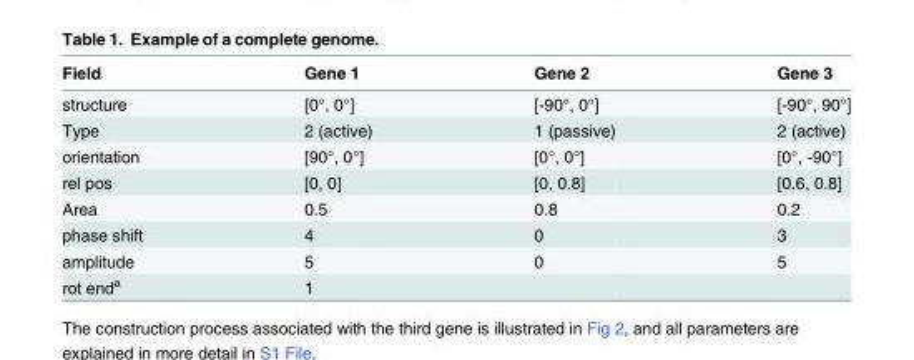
<table><thead><tr><td>Field</td><td>Gene 1</td><td>Gene 2</td><td>Gene 3</td></tr></thead><tbody><tr><td>structure</td><td>[0°, 0°]</td><td>[-90°, 0°]</td><td>[-90°, 90°]</td></tr><tr><td>Type</td><td>2 (active)</td><td>1 (passive)</td><td>2 (active)</td></tr><tr><td>orientation</td><td>[90°, 0°]</td><td>[0°, 0°]</td><td>[0°, -90°]</td></tr><tr><td>rel pos</td><td>[0, 0]</td><td>[0, 0.8]</td><td>[0.6, 0.8]</td></tr><tr><td>Area</td><td>0.5</td><td>0.8</td><td>0.2</td></tr><tr><td>phase shift</td><td>4</td><td>0</td><td>3</td></tr><tr><td>amplitude</td><td>5</td><td>0</td><td>5</td></tr><tr><td>rot end<sup>a</sup></td><td>1</td><td></td><td></td></tr></tbody></table>